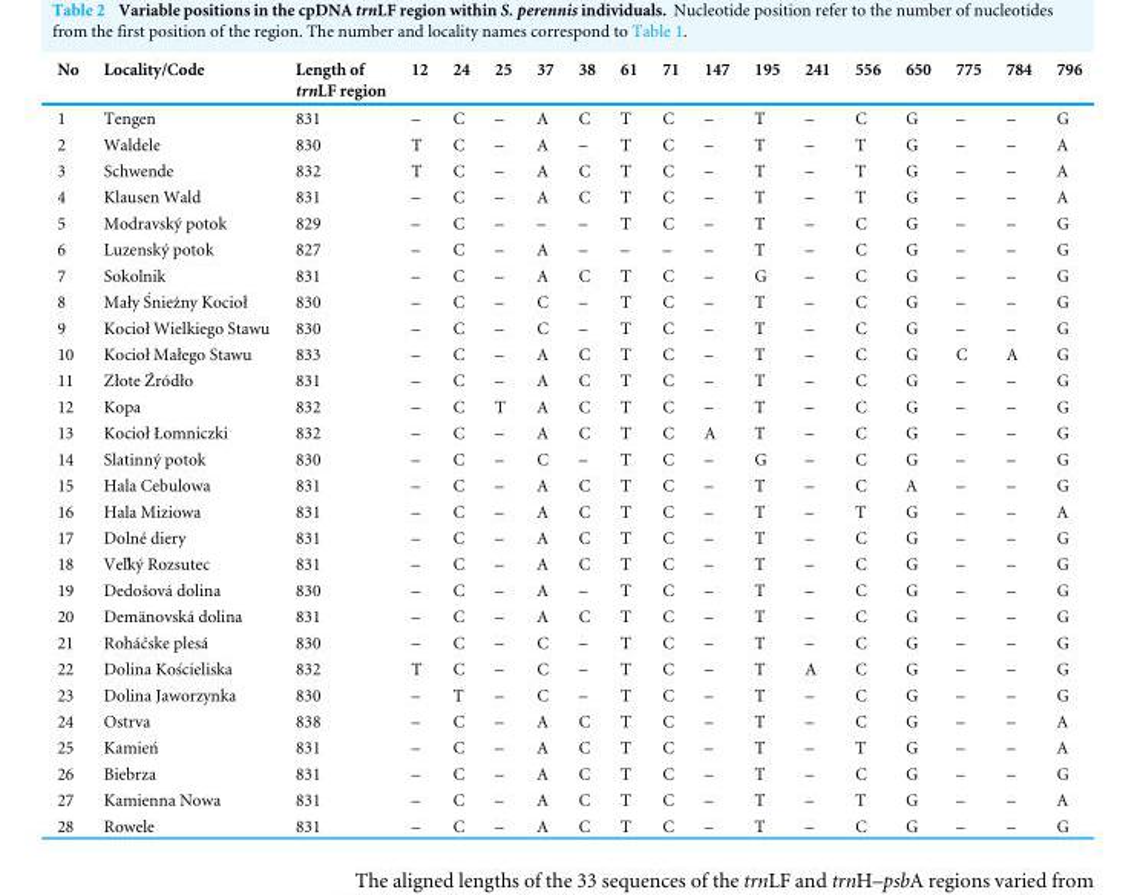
<table><thead><tr><td>No</td><td>Locality/Code</td><td>Length of trnLF region</td><td>12</td><td>24</td><td>25</td><td>37</td><td>38</td><td>61</td><td>71</td><td>147</td><td>195</td><td>241</td><td>556</td><td>650</td><td>775</td><td>784</td><td>796</td></tr></thead><tbody><tr><td>1</td><td>Tengen</td><td>831</td><td>–</td><td>C</td><td>–</td><td>A</td><td>C</td><td>T</td><td>C</td><td>–</td><td>T</td><td>–</td><td>C</td><td>G</td><td>–</td><td>–</td><td>G</td></tr><tr><td>2</td><td>Waldele</td><td>830</td><td>T</td><td>C</td><td>–</td><td>A</td><td>–</td><td>T</td><td>C</td><td>–</td><td>T</td><td>–</td><td>T</td><td>G</td><td>–</td><td>–</td><td>A</td></tr><tr><td>3</td><td>Schwende</td><td>832</td><td>T</td><td>C</td><td>–</td><td>A</td><td>C</td><td>T</td><td>C</td><td>–</td><td>T</td><td>–</td><td>T</td><td>G</td><td>–</td><td>–</td><td>A</td></tr><tr><td>4</td><td>Klausen Wald</td><td>831</td><td>–</td><td>C</td><td>–</td><td>A</td><td>C</td><td>T</td><td>C</td><td>–</td><td>T</td><td>–</td><td>T</td><td>G</td><td>–</td><td>–</td><td>A</td></tr><tr><td>5</td><td>Modravský potok</td><td>829</td><td>–</td><td>C</td><td>–</td><td>–</td><td>–</td><td>T</td><td>C</td><td>–</td><td>T</td><td>–</td><td>C</td><td>G</td><td>–</td><td>–</td><td>G</td></tr><tr><td>6</td><td>Luzenský potok</td><td>827</td><td>–</td><td>C</td><td>–</td><td>A</td><td>–</td><td>–</td><td>–</td><td>–</td><td>T</td><td>–</td><td>C</td><td>G</td><td>–</td><td>–</td><td>G</td></tr><tr><td>7</td><td>Sokolnik</td><td>831</td><td>–</td><td>C</td><td>–</td><td>A</td><td>C</td><td>T</td><td>C</td><td>–</td><td>G</td><td>–</td><td>C</td><td>G</td><td>–</td><td>–</td><td>G</td></tr><tr><td>8</td><td>Mały Śnieżny Kocioł</td><td>830</td><td>–</td><td>C</td><td>–</td><td>C</td><td>–</td><td>T</td><td>C</td><td>–</td><td>T</td><td>–</td><td>C</td><td>G</td><td>–</td><td>–</td><td>G</td></tr><tr><td>9</td><td>Kocioł Wielkiego Stawu</td><td>830</td><td>–</td><td>C</td><td>–</td><td>C</td><td>–</td><td>T</td><td>C</td><td>–</td><td>T</td><td>–</td><td>C</td><td>G</td><td>–</td><td>–</td><td>G</td></tr><tr><td>10</td><td>Kocioł Małego Stawu</td><td>833</td><td>–</td><td>C</td><td>–</td><td>A</td><td>C</td><td>T</td><td>C</td><td>–</td><td>T</td><td>–</td><td>C</td><td>G</td><td>C</td><td>A</td><td>G</td></tr><tr><td>11</td><td>Złote Źródło</td><td>831</td><td>–</td><td>C</td><td>–</td><td>A</td><td>C</td><td>T</td><td>C</td><td>–</td><td>T</td><td>–</td><td>C</td><td>G</td><td>–</td><td>–</td><td>G</td></tr><tr><td>12</td><td>Kopa</td><td>832</td><td>–</td><td>C</td><td>T</td><td>A</td><td>C</td><td>T</td><td>C</td><td>–</td><td>T</td><td>–</td><td>C</td><td>G</td><td>–</td><td>–</td><td>G</td></tr><tr><td>13</td><td>Kocioł Łomniczki</td><td>832</td><td>–</td><td>C</td><td>–</td><td>A</td><td>C</td><td>T</td><td>C</td><td>A</td><td>T</td><td>–</td><td>C</td><td>G</td><td>–</td><td>–</td><td>G</td></tr><tr><td>14</td><td>Slatinný potok</td><td>830</td><td>–</td><td>C</td><td>–</td><td>C</td><td>–</td><td>T</td><td>C</td><td>–</td><td>G</td><td>–</td><td>C</td><td>G</td><td>–</td><td>–</td><td>G</td></tr><tr><td>15</td><td>Hala Cebulowa</td><td>831</td><td>–</td><td>C</td><td>–</td><td>A</td><td>C</td><td>T</td><td>C</td><td>–</td><td>T</td><td>–</td><td>C</td><td>A</td><td>–</td><td>–</td><td>G</td></tr><tr><td>16</td><td>Hala Miziowa</td><td>831</td><td>–</td><td>C</td><td>–</td><td>A</td><td>C</td><td>T</td><td>C</td><td>–</td><td>T</td><td>–</td><td>T</td><td>G</td><td>–</td><td>–</td><td>A</td></tr><tr><td>17</td><td>Dolné diery</td><td>831</td><td>–</td><td>C</td><td>–</td><td>A</td><td>C</td><td>T</td><td>C</td><td>–</td><td>T</td><td>–</td><td>C</td><td>G</td><td>–</td><td>–</td><td>G</td></tr><tr><td>18</td><td>Veľký Rozsutec</td><td>831</td><td>–</td><td>C</td><td>–</td><td>A</td><td>C</td><td>T</td><td>C</td><td>–</td><td>T</td><td>–</td><td>C</td><td>G</td><td>–</td><td>–</td><td>G</td></tr><tr><td>19</td><td>Dedošová dolina</td><td>830</td><td>–</td><td>C</td><td>–</td><td>A</td><td>–</td><td>T</td><td>C</td><td>–</td><td>T</td><td>–</td><td>C</td><td>G</td><td>–</td><td>–</td><td>G</td></tr><tr><td>20</td><td>Demänovská dolina</td><td>831</td><td>–</td><td>C</td><td>–</td><td>A</td><td>C</td><td>T</td><td>C</td><td>–</td><td>T</td><td>–</td><td>C</td><td>G</td><td>–</td><td>–</td><td>G</td></tr><tr><td>21</td><td>Roháčske plesá</td><td>830</td><td>–</td><td>C</td><td>–</td><td>C</td><td>–</td><td>T</td><td>C</td><td>–</td><td>T</td><td>–</td><td>C</td><td>G</td><td>–</td><td>–</td><td>G</td></tr><tr><td>22</td><td>Dolina Kościeliska</td><td>832</td><td>T</td><td>C</td><td>–</td><td>C</td><td>–</td><td>T</td><td>C</td><td>–</td><td>T</td><td>A</td><td>C</td><td>G</td><td>–</td><td>–</td><td>G</td></tr><tr><td>23</td><td>Dolina Jaworzynka</td><td>830</td><td>–</td><td>T</td><td>–</td><td>C</td><td>–</td><td>T</td><td>C</td><td>–</td><td>T</td><td>–</td><td>C</td><td>G</td><td>–</td><td>–</td><td>G</td></tr><tr><td>24</td><td>Ostrva</td><td>838</td><td>–</td><td>C</td><td>–</td><td>A</td><td>C</td><td>T</td><td>C</td><td>–</td><td>T</td><td>–</td><td>C</td><td>G</td><td>–</td><td>–</td><td>A</td></tr><tr><td>25</td><td>Kamień</td><td>831</td><td>–</td><td>C</td><td>–</td><td>A</td><td>C</td><td>T</td><td>C</td><td>–</td><td>T</td><td>–</td><td>T</td><td>G</td><td>–</td><td>–</td><td>A</td></tr><tr><td>26</td><td>Biebrza</td><td>831</td><td>–</td><td>C</td><td>–</td><td>A</td><td>C</td><td>T</td><td>C</td><td>–</td><td>T</td><td>–</td><td>C</td><td>G</td><td>–</td><td>–</td><td>G</td></tr><tr><td>27</td><td>Kamienna Nowa</td><td>831</td><td>–</td><td>C</td><td>–</td><td>A</td><td>C</td><td>T</td><td>C</td><td>–</td><td>T</td><td>–</td><td>T</td><td>G</td><td>–</td><td>–</td><td>A</td></tr><tr><td>28</td><td>Rowele</td><td>831</td><td>–</td><td>C</td><td>–</td><td>A</td><td>C</td><td>T</td><td>C</td><td>–</td><td>T</td><td>–</td><td>C</td><td>G</td><td>–</td><td>–</td><td>G</td></tr></tbody></table>